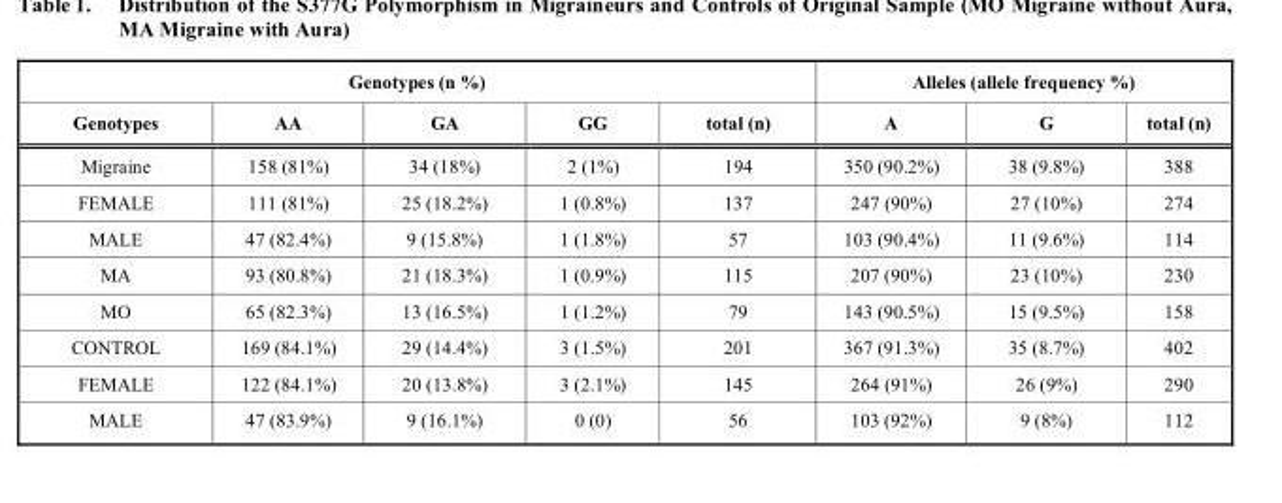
<table><thead><tr><td colspan="5">Genotypes (n %)</td><td colspan="3">Alleles (allele frequency %)</td></tr><tr><td>Genotypes</td><td>AA</td><td>GA</td><td>GG</td><td>total (n)</td><td>A</td><td>G</td><td>total (n)</td></tr></thead><tbody><tr><td>Migraine</td><td>158 (81%)</td><td>34 (18%)</td><td>2 (1%)</td><td>194</td><td>350 (90.2%)</td><td>38 (9.8%)</td><td>388</td></tr><tr><td>FEMALE</td><td>111 (81%)</td><td>25 (18.2%)</td><td>1 (0.8%)</td><td>137</td><td>247 (90%)</td><td>27 (10%)</td><td>274</td></tr><tr><td>MALE</td><td>47 (82.4%)</td><td>9 (15.8%)</td><td>1 (1.8%)</td><td>57</td><td>103 (90.4%)</td><td>11 (9.6%)</td><td>114</td></tr><tr><td>MA</td><td>93 (80.8%)</td><td>21 (18.3%)</td><td>1 (0.9%)</td><td>115</td><td>207 (90%)</td><td>23 (10%)</td><td>230</td></tr><tr><td>MO</td><td>65 (82.3%)</td><td>13 (16.5%)</td><td>1 (1.2%)</td><td>79</td><td>143 (90.5%)</td><td>15 (9.5%)</td><td>158</td></tr><tr><td>CONTROL</td><td>169 (84.1%)</td><td>29 (14.4%)</td><td>3 (1.5%)</td><td>201</td><td>367 (91.3%)</td><td>35 (8.7%)</td><td>402</td></tr><tr><td>FEMALE</td><td>122 (84.1%)</td><td>20 (13.8%)</td><td>3 (2.1%)</td><td>145</td><td>264 (91%)</td><td>26 (9%)</td><td>290</td></tr><tr><td>MALE</td><td>47 (83.9%)</td><td>9 (16.1%)</td><td>0 (0)</td><td>56</td><td>103 (92%)</td><td>9 (8%)</td><td>112</td></tr></tbody></table>